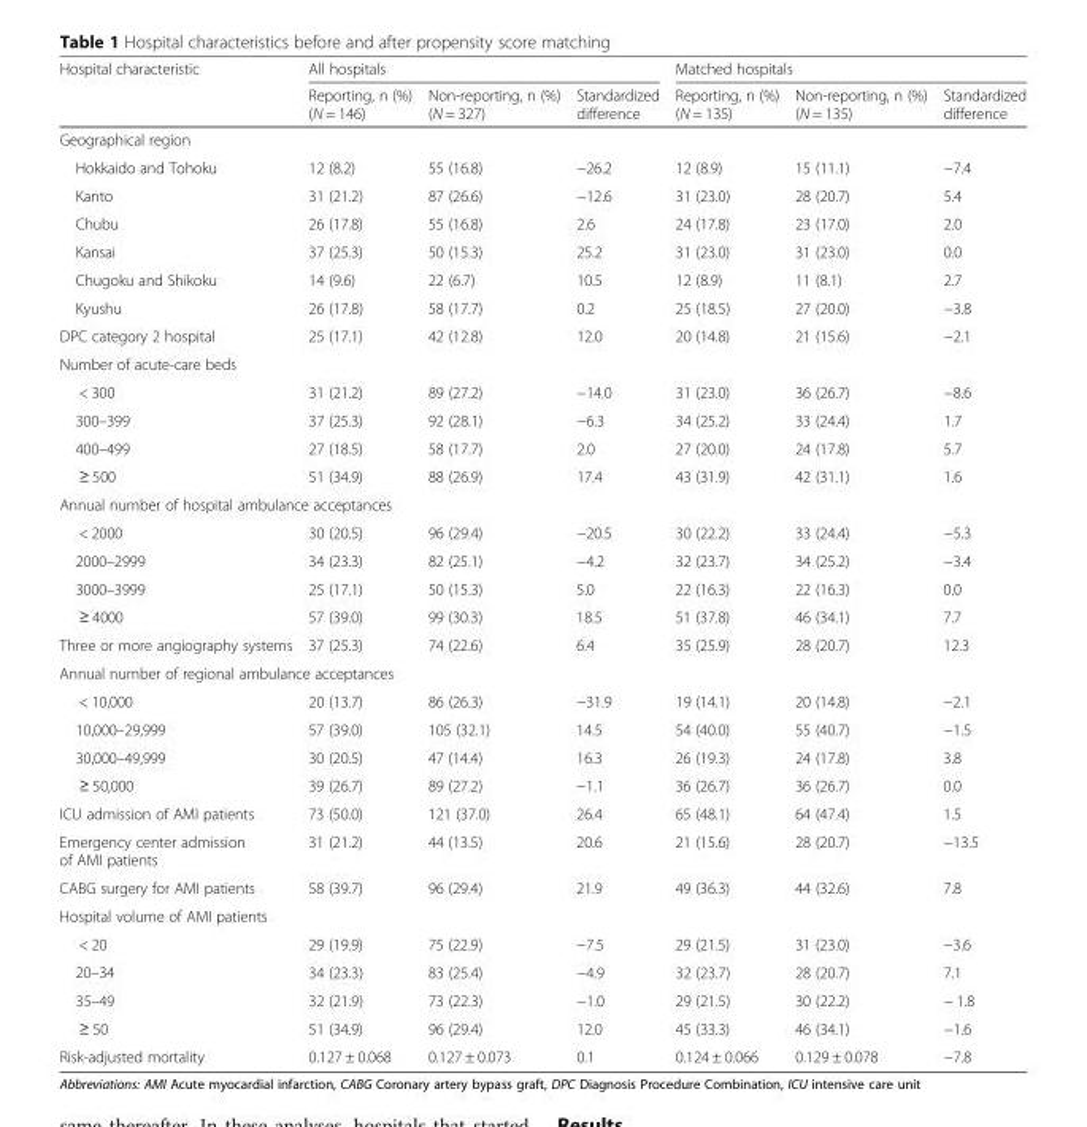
<table><thead><tr><td rowspan="2">Hospital characteristic</td><td colspan="3">All hospitals</td><td colspan="3">Matched hospitals</td></tr><tr><td>Reporting, n (%) (N = 146)</td><td>Non-reporting, n (%) (N = 327)</td><td>Standardized difference</td><td>Reporting, n (%) (N = 135)</td><td>Non-reporting, n (%) (N = 135)</td><td>Standardized difference</td></tr></thead><tbody><tr><td colspan="7">Geographical region</td></tr><tr><td>Hokkaido and Tohoku</td><td>12 (8.2)</td><td>55 (16.8)</td><td>−26.2</td><td>12 (8.9)</td><td>15 (11.1)</td><td>−7.4</td></tr><tr><td>Kanto</td><td>31 (21.2)</td><td>87 (26.6)</td><td>−12.6</td><td>31 (23.0)</td><td>28 (20.7)</td><td>5.4</td></tr><tr><td>Chubu</td><td>26 (17.8)</td><td>55 (16.8)</td><td>2.6</td><td>24 (17.8)</td><td>23 (17.0)</td><td>2.0</td></tr><tr><td>Kansai</td><td>37 (25.3)</td><td>50 (15.3)</td><td>25.2</td><td>31 (23.0)</td><td>31 (23.0)</td><td>0.0</td></tr><tr><td>Chugoku and Shikoku</td><td>14 (9.6)</td><td>22 (6.7)</td><td>10.5</td><td>12 (8.9)</td><td>11 (8.1)</td><td>2.7</td></tr><tr><td>Kyushu</td><td>26 (17.8)</td><td>58 (17.7)</td><td>0.2</td><td>25 (18.5)</td><td>27 (20.0)</td><td>−3.8</td></tr><tr><td>DPC category 2 hospital</td><td>25 (17.1)</td><td>42 (12.8)</td><td>12.0</td><td>20 (14.8)</td><td>21 (15.6)</td><td>−2.1</td></tr><tr><td colspan="7">Number of acute-care beds</td></tr><tr><td>&lt; 300</td><td>31 (21.2)</td><td>89 (27.2)</td><td>−14.0</td><td>31 (23.0)</td><td>36 (26.7)</td><td>−8.6</td></tr><tr><td>300–399</td><td>37 (25.3)</td><td>92 (28.1)</td><td>−6.3</td><td>34 (25.2)</td><td>33 (24.4)</td><td>1.7</td></tr><tr><td>400–499</td><td>27 (18.5)</td><td>58 (17.7)</td><td>2.0</td><td>27 (20.0)</td><td>24 (17.8)</td><td>5.7</td></tr><tr><td>≥ 500</td><td>51 (34.9)</td><td>88 (26.9)</td><td>17.4</td><td>43 (31.9)</td><td>42 (31.1)</td><td>1.6</td></tr><tr><td colspan="7">Annual number of hospital ambulance acceptances</td></tr><tr><td>&lt; 2000</td><td>30 (20.5)</td><td>96 (29.4)</td><td>−20.5</td><td>30 (22.2)</td><td>33 (24.4)</td><td>−5.3</td></tr><tr><td>2000–2999</td><td>34 (23.3)</td><td>82 (25.1)</td><td>−4.2</td><td>32 (23.7)</td><td>34 (25.2)</td><td>−3.4</td></tr><tr><td>3000–3999</td><td>25 (17.1)</td><td>50 (15.3)</td><td>5.0</td><td>22 (16.3)</td><td>22 (16.3)</td><td>0.0</td></tr><tr><td>≥ 4000</td><td>57 (39.0)</td><td>99 (30.3)</td><td>18.5</td><td>51 (37.8)</td><td>46 (34.1)</td><td>7.7</td></tr><tr><td>Three or more angiography systems</td><td>37 (25.3)</td><td>74 (22.6)</td><td>6.4</td><td>35 (25.9)</td><td>28 (20.7)</td><td>12.3</td></tr><tr><td colspan="7">Annual number of regional ambulance acceptances</td></tr><tr><td>&lt; 10,000</td><td>20 (13.7)</td><td>86 (26.3)</td><td>−31.9</td><td>19 (14.1)</td><td>20 (14.8)</td><td>−2.1</td></tr><tr><td>10,000–29,999</td><td>57 (39.0)</td><td>105 (32.1)</td><td>14.5</td><td>54 (40.0)</td><td>55 (40.7)</td><td>−1.5</td></tr><tr><td>30,000–49,999</td><td>30 (20.5)</td><td>47 (14.4)</td><td>16.3</td><td>26 (19.3)</td><td>24 (17.8)</td><td>3.8</td></tr><tr><td>≥ 50,000</td><td>39 (26.7)</td><td>89 (27.2)</td><td>−1.1</td><td>36 (26.7)</td><td>36 (26.7)</td><td>0.0</td></tr><tr><td>ICU admission of AMI patients</td><td>73 (50.0)</td><td>121 (37.0)</td><td>26.4</td><td>65 (48.1)</td><td>64 (47.4)</td><td>1.5</td></tr><tr><td>Emergency center admission of AMI patients</td><td>31 (21.2)</td><td>44 (13.5)</td><td>20.6</td><td>21 (15.6)</td><td>28 (20.7)</td><td>−13.5</td></tr><tr><td>CABG surgery for AMI patients</td><td>58 (39.7)</td><td>96 (29.4)</td><td>21.9</td><td>49 (36.3)</td><td>44 (32.6)</td><td>7.8</td></tr><tr><td colspan="7">Hospital volume of AMI patients</td></tr><tr><td>&lt; 20</td><td>29 (19.9)</td><td>75 (22.9)</td><td>−7.5</td><td>29 (21.5)</td><td>31 (23.0)</td><td>−3.6</td></tr><tr><td>20–34</td><td>34 (23.3)</td><td>83 (25.4)</td><td>−4.9</td><td>32 (23.7)</td><td>28 (20.7)</td><td>7.1</td></tr><tr><td>35–49</td><td>32 (21.9)</td><td>73 (22.3)</td><td>−1.0</td><td>29 (21.5)</td><td>30 (22.2)</td><td>− 1.8</td></tr><tr><td>≥ 50</td><td>51 (34.9)</td><td>96 (29.4)</td><td>12.0</td><td>45 (33.3)</td><td>46 (34.1)</td><td>−1.6</td></tr><tr><td>Risk-adjusted mortality</td><td>0.127 ± 0.068</td><td>0.127 ± 0.073</td><td>0.1</td><td>0.124 ± 0.066</td><td>0.129 ± 0.078</td><td>−7.8</td></tr></tbody></table>